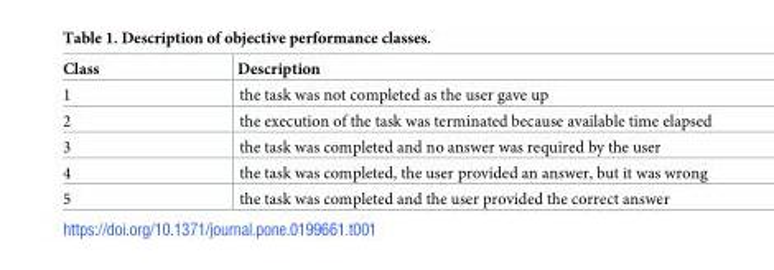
<table><thead><tr><td>Class</td><td>Description</td></tr></thead><tbody><tr><td>1</td><td>the task was not completed as the user gave up</td></tr><tr><td>2</td><td>the execution of the task was terminated because available time elapsed</td></tr><tr><td>3</td><td>the task was completed and no answer was required by the user</td></tr><tr><td>4</td><td>the task was completed, the user provided an answer, but it was wrong</td></tr><tr><td>5</td><td>the task was completed and the user provided the correct answer</td></tr></tbody></table>